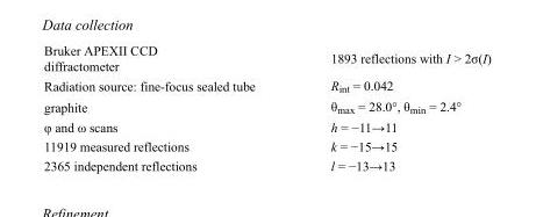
<table><tbody><tr><td>Bruker APEXII CCD diffractometer</td><td>1893 reflections with I &gt; 2σ(I)</td></tr><tr><td>Radiation source: fine-focus sealed tube</td><td>R<sub>int</sub> = 0.042</td></tr><tr><td>graphite</td><td>θ<sub>max</sub> = 28.0°, θ<sub>min</sub> = 2.4°</td></tr><tr><td>φ and ω scans</td><td>h = −11→11</td></tr><tr><td>11919 measured reflections</td><td>k = −15→15</td></tr><tr><td>2365 independent reflections</td><td>l = −13→13</td></tr></tbody></table>